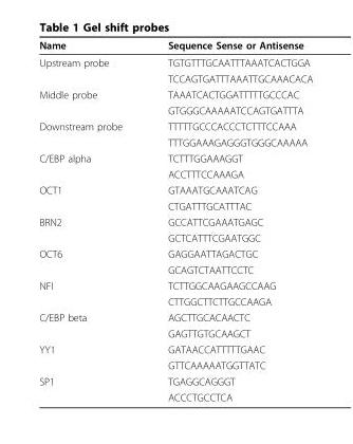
<table><thead><tr><td>Name</td><td>Sequence Sense or Antisense</td></tr></thead><tbody><tr><td rowspan="2">Upstream probe</td><td>TGTGTTTGCAATTTAAATCACTGGA</td></tr><tr><td>TCCAGTGATTTAAATTGCAAACACA</td></tr><tr><td rowspan="2">Middle probe</td><td>TAAATCACTGGATTTTTGCCCAC</td></tr><tr><td>GTGGGCAAAAATCCAGTGATTTA</td></tr><tr><td rowspan="2">Downstream probe</td><td>TTTTTGCCCACCCTCTTTCCAAA</td></tr><tr><td>TTTGGAAAGAGGGTGGGCAAAAA</td></tr><tr><td rowspan="2">C/EBP alpha</td><td>TCTTTGGAAAGGT</td></tr><tr><td>ACCTTTCCAAAGA</td></tr><tr><td rowspan="2">OCT1</td><td>GTAAATGCAAATCAG</td></tr><tr><td>CTGATTTGCATTTAC</td></tr><tr><td rowspan="2">BRN2</td><td>GCCATTCGAAATGAGC</td></tr><tr><td>GCTCATTTCGAATGGC</td></tr><tr><td rowspan="2">OCT6</td><td>GAGGAATTAGACTGC</td></tr><tr><td>GCAGTCTAATTCCTC</td></tr><tr><td rowspan="2">NFI</td><td>TCTTGGCAAGAAGCCAAG</td></tr><tr><td>CTTGGCTTCTTGCCAAGA</td></tr><tr><td rowspan="2">C/EBP beta</td><td>AGCTTGCACAACTC</td></tr><tr><td>GAGTTGTGCAAGCT</td></tr><tr><td rowspan="2">YY1</td><td>GATAACCATTTTTGAAC</td></tr><tr><td>GTTCAAAAATGGTTATC</td></tr><tr><td rowspan="2">SP1</td><td>TGAGGCAGGGT</td></tr><tr><td>ACCCTGCCTCA</td></tr></tbody></table>